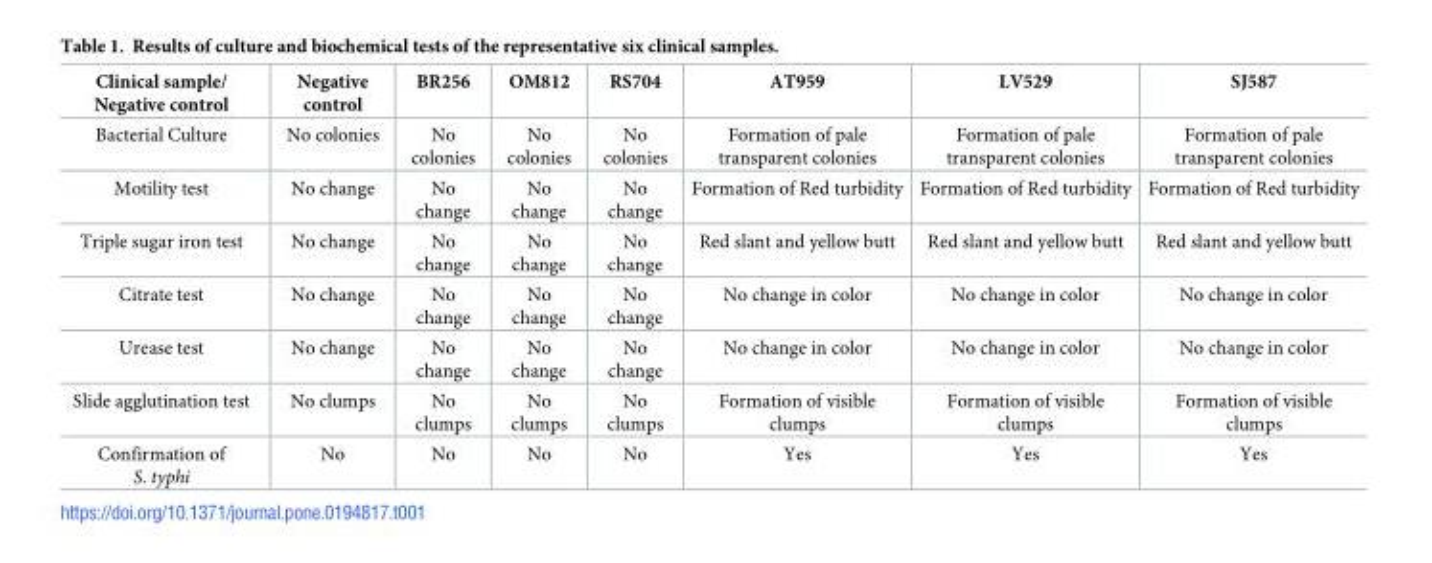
<table><thead><tr><td>Clinical sample/ Negative control</td><td>Negative control</td><td>BR256</td><td>OM812</td><td>RS704</td><td>AT959</td><td>LV529</td><td>SJ587</td></tr></thead><tbody><tr><td>Bacterial Culture</td><td>No colonies</td><td>No colonies</td><td>No colonies</td><td>No colonies</td><td>Formation of pale transparent colonies</td><td>Formation of pale transparent colonies</td><td>Formation of pale transparent colonies</td></tr><tr><td>Motility test</td><td>No change</td><td>No change</td><td>No change</td><td>No change</td><td>Formation of Red turbidity</td><td>Formation of Red turbidity</td><td>Formation of Red turbidity</td></tr><tr><td>Triple sugar iron test</td><td>No change</td><td>No change</td><td>No change</td><td>No change</td><td>Red slant and yellow butt</td><td>Red slant and yellow butt</td><td>Red slant and yellow butt</td></tr><tr><td>Citrate test</td><td>No change</td><td>No change</td><td>No change</td><td>No change</td><td>No change in color</td><td>No change in color</td><td>No change in color</td></tr><tr><td>Urease test</td><td>No change</td><td>No change</td><td>No change</td><td>No change</td><td>No change in color</td><td>No change in color</td><td>No change in color</td></tr><tr><td>Slide agglutination test</td><td>No clumps</td><td>No clumps</td><td>No clumps</td><td>No clumps</td><td>Formation of visible clumps</td><td>Formation of visible clumps</td><td>Formation of visible clumps</td></tr><tr><td>Confirmation of S. typhi</td><td>No</td><td>No</td><td>No</td><td>No</td><td>Yes</td><td>Yes</td><td>Yes</td></tr></tbody></table>